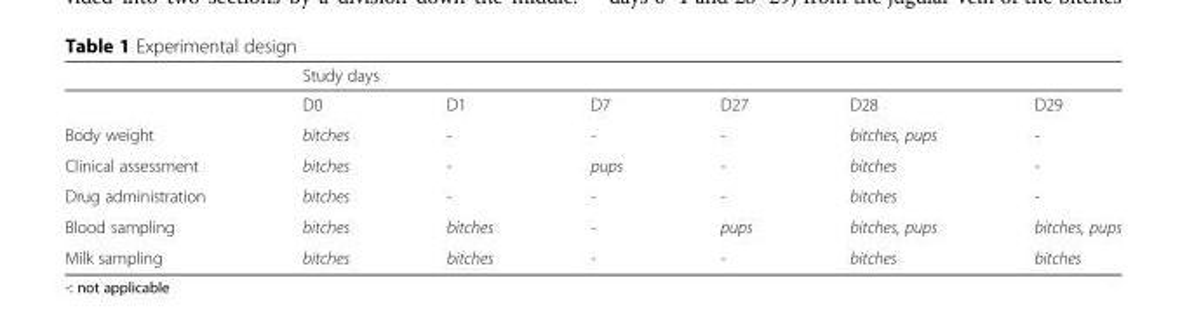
<table><thead><tr><td rowspan="2"></td><td colspan="6">Study days</td></tr><tr><td>D0</td><td>D1</td><td>D7</td><td>D27</td><td>D28</td><td>D29</td></tr></thead><tbody><tr><td>Body weight</td><td>bitches</td><td>-</td><td>-</td><td>-</td><td>bitches, pups</td><td>-</td></tr><tr><td>Clinical assessment</td><td>bitches</td><td>-</td><td>pups</td><td>-</td><td>bitches</td><td>-</td></tr><tr><td>Drug administration</td><td>bitches</td><td>-</td><td>-</td><td>-</td><td>bitches</td><td>-</td></tr><tr><td>Blood sampling</td><td>bitches</td><td>bitches</td><td>-</td><td>pups</td><td>bitches, pups</td><td>bitches, pups</td></tr><tr><td>Milk sampling</td><td>bitches</td><td>bitches</td><td>-</td><td>-</td><td>bitches</td><td>bitches</td></tr></tbody></table>